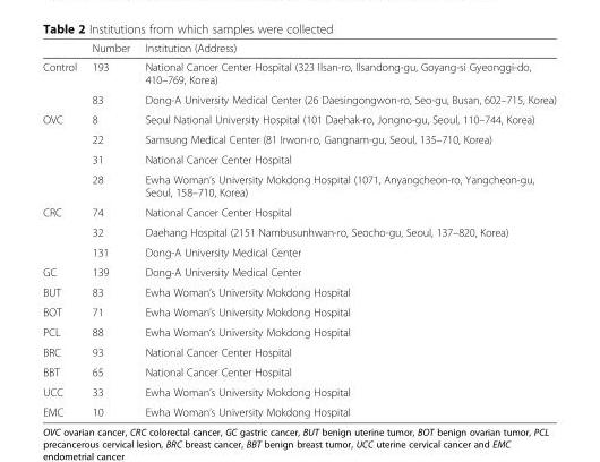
<table><thead><tr><td></td><td>Number</td><td>Institution (Address)</td></tr></thead><tbody><tr><td rowspan="2">Control</td><td>193</td><td>National Cancer Center Hospital (323 Ilsan-ro, Ilsandong-gu, Goyang-si Gyeonggi-do, 410–769, Korea)</td></tr><tr><td>83</td><td>Dong-A University Medical Center (26 Daesingongwon-ro, Seo-gu, Busan, 602–715, Korea)</td></tr><tr><td rowspan="4">OVC</td><td>8</td><td>Seoul National University Hospital (101 Daehak-ro, Jongno-gu, Seoul, 110–744, Korea)</td></tr><tr><td>22</td><td>Samsung Medical Center (81 Irwon-ro, Gangnam-gu, Seoul, 135–710, Korea)</td></tr><tr><td>31</td><td>National Cancer Center Hospital</td></tr><tr><td>28</td><td>Ewha Woman’s University Mokdong Hospital (1071, Anyangcheon-ro, Yangcheon-gu, Seoul, 158–710, Korea)</td></tr><tr><td rowspan="3">CRC</td><td>74</td><td>National Cancer Center Hospital</td></tr><tr><td>32</td><td>Daehang Hospital (2151 Nambusunhwan-ro, Seocho-gu, Seoul, 137–820, Korea)</td></tr><tr><td>131</td><td>Dong-A University Medical Center</td></tr><tr><td>GC</td><td>139</td><td>Dong-A University Medical Center</td></tr><tr><td>BUT</td><td>83</td><td>Ewha Woman’s University Mokdong Hospital</td></tr><tr><td>BOT</td><td>71</td><td>Ewha Woman’s University Mokdong Hospital</td></tr><tr><td>PCL</td><td>88</td><td>Ewha Woman’s University Mokdong Hospital</td></tr><tr><td>BRC</td><td>93</td><td>National Cancer Center Hospital</td></tr><tr><td>BBT</td><td>65</td><td>National Cancer Center Hospital</td></tr><tr><td>UCC</td><td>33</td><td>Ewha Woman’s University Mokdong Hospital</td></tr><tr><td>EMC</td><td>10</td><td>Ewha Woman’s University Mokdong Hospital</td></tr></tbody></table>